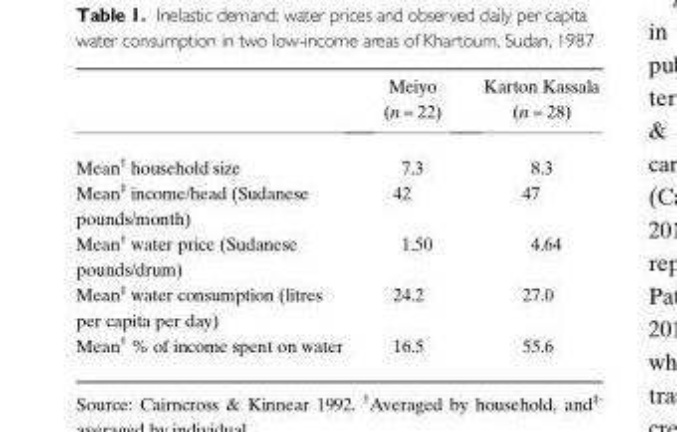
<table><thead><tr><td></td><td>Meiyo (n = 22)</td><td>Karton Kassala (n = 28)</td></tr></thead><tbody><tr><td>Mean† household size</td><td>7.3</td><td>8.3</td></tr><tr><td>Mean‡ income/head (Sudanese pounds/month)</td><td>42</td><td>47</td></tr><tr><td>Mean† water price (Sudanese pounds/drum)</td><td>1.50</td><td>4.64</td></tr><tr><td>Mean‡ water consumption (litres per capita per day)</td><td>24.2</td><td>27.0</td></tr><tr><td>Mean† % of income spent on water</td><td>16.5</td><td>55.6</td></tr></tbody></table>